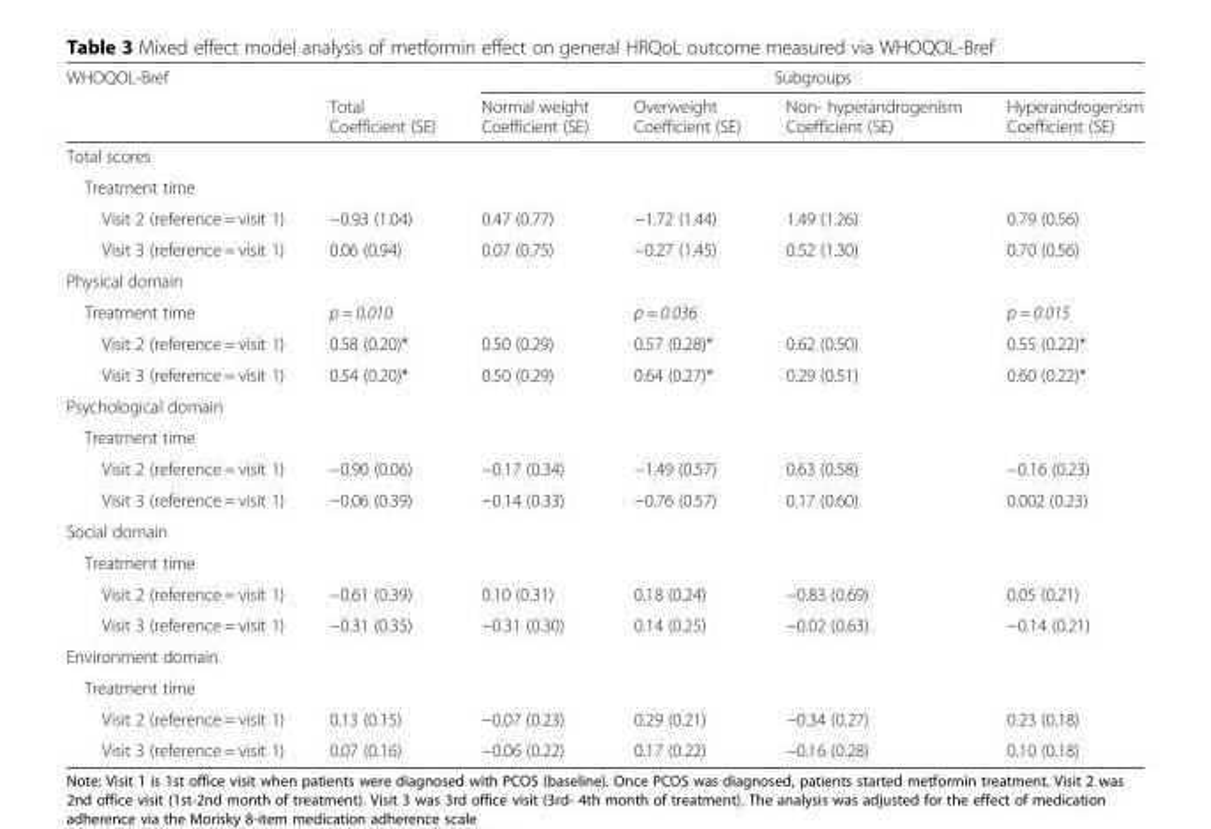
<table><thead><tr><td rowspan="2">WHOQOL-Bref</td><td rowspan="2">Total Coefficient (SE)</td><td colspan="4">Subgroups</td></tr><tr><td>Normal weight Coefficient (SE)</td><td>Overweight Coefficient (SE)</td><td>Non- hyperandrogenism Coefficient (SE)</td><td>Hyperandrogenism Coefficient (SE)</td></tr></thead><tbody><tr><td colspan="6">Total scores</td></tr><tr><td colspan="6">Treatment time</td></tr><tr><td>Visit 2 (reference = visit 1)</td><td>−0.93 (1.04)</td><td>0.47 (0.77)</td><td>−1.72 (1.44)</td><td>1.49 (1.26)</td><td>0.79 (0.56)</td></tr><tr><td>Visit 3 (reference = visit 1)</td><td>0.06 (0.94)</td><td>0.07 (0.75)</td><td>−0.27 (1.45)</td><td>0.52 (1.30)</td><td>0.70 (0.56)</td></tr><tr><td colspan="6">Physical domain</td></tr><tr><td>Treatment time</td><td>p = 0.010</td><td></td><td>p = 0.036</td><td></td><td>p = 0.015</td></tr><tr><td>Visit 2 (reference = visit 1)</td><td>0.58 (0.20)*</td><td>0.50 (0.29)</td><td>0.57 (0.28)*</td><td>0.62 (0.50)</td><td>0.55 (0.22)*</td></tr><tr><td>Visit 3 (reference = visit 1)</td><td>0.54 (0.20)*</td><td>0.50 (0.29)</td><td>0.64 (0.27)*</td><td>0.29 (0.51)</td><td>0.60 (0.22)*</td></tr><tr><td colspan="6">Psychological domain</td></tr><tr><td colspan="6">Treatment time</td></tr><tr><td>Visit 2 (reference = visit 1)</td><td>−0.90 (0.06)</td><td>−0.17 (0.34)</td><td>−1.49 (0.57)</td><td>0.63 (0.58)</td><td>−0.16 (0.23)</td></tr><tr><td>Visit 3 (reference = visit 1)</td><td>−0.06 (0.39)</td><td>−0.14 (0.33)</td><td>−0.76 (0.57)</td><td>0.17 (0.60)</td><td>0.002 (0.23)</td></tr><tr><td colspan="6">Social domain</td></tr><tr><td colspan="6">Treatment time</td></tr><tr><td>Visit 2 (reference = visit 1)</td><td>−0.61 (0.39)</td><td>0.10 (0.31)</td><td>0.18 (0.24)</td><td>−0.83 (0.69)</td><td>0.05 (0.21)</td></tr><tr><td>Visit 3 (reference = visit 1)</td><td>−0.31 (0.35)</td><td>−0.31 (0.30)</td><td>0.14 (0.25)</td><td>−0.02 (0.63)</td><td>−0.14 (0.21)</td></tr><tr><td colspan="6">Environment domain</td></tr><tr><td colspan="6">Treatment time</td></tr><tr><td>Visit 2 (reference = visit 1)</td><td>0.13 (0.15)</td><td>−0.07 (0.23)</td><td>0.29 (0.21)</td><td>−0.34 (0.27)</td><td>0.23 (0.18)</td></tr><tr><td>Visit 3 (reference = visit 1)</td><td>0.07 (0.16)</td><td>−0.06 (0.22)</td><td>0.17 (0.22)</td><td>−0.16 (0.28)</td><td>0.10 (0.18)</td></tr></tbody></table>